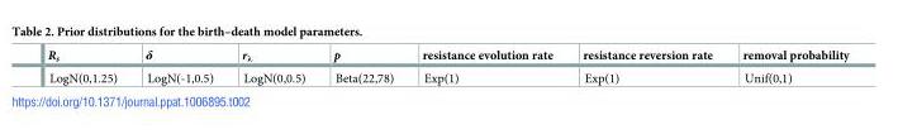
<table><thead><tr><td>R<sub>s</sub></td><td>δ</td><td>r<sub>λ</sub></td><td>p</td><td>resistance evolution rate</td><td>resistance reversion rate</td><td>removal probability</td></tr></thead><tbody><tr><td>LogN(0,1.25)</td><td>LogN(-1,0.5)</td><td>LogN(0,0.5)</td><td>Beta(22,78)</td><td>Exp(1)</td><td>Exp(1)</td><td>Unif(0,1)</td></tr></tbody></table>